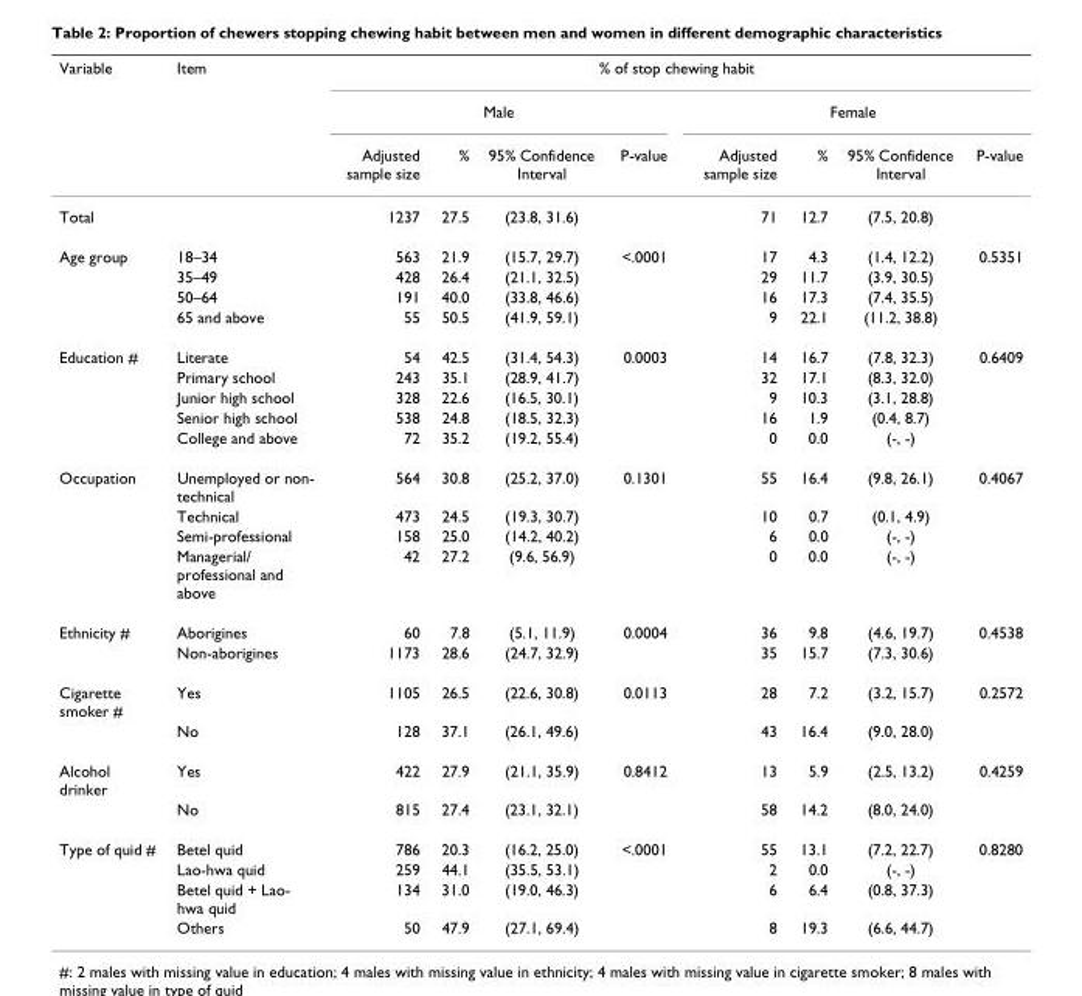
<table><thead><tr><td rowspan="3">Variable</td><td rowspan="3">Item</td><td colspan="8">% of stop chewing habit</td></tr><tr><td colspan="4">Male</td><td colspan="4">Female</td></tr><tr><td>Adjusted sample size</td><td>%</td><td>95% Confidence Interval</td><td>P-value</td><td>Adjusted sample size</td><td>%</td><td>95% Confidence Interval</td><td>P-value</td></tr></thead><tbody><tr><td>Total</td><td></td><td>1237</td><td>27.5</td><td>(23.8, 31.6)</td><td></td><td>71</td><td>12.7</td><td>(7.5, 20.8)</td><td></td></tr><tr><td rowspan="4">Age group</td><td>18–34</td><td>563</td><td>21.9</td><td>(15.7, 29.7)</td><td>&lt;.0001</td><td>17</td><td>4.3</td><td>(1.4, 12.2)</td><td>0.5351</td></tr><tr><td>35–49</td><td>428</td><td>26.4</td><td>(21.1, 32.5)</td><td></td><td>29</td><td>11.7</td><td>(3.9, 30.5)</td><td></td></tr><tr><td>50–64</td><td>191</td><td>40.0</td><td>(33.8, 46.6)</td><td></td><td>16</td><td>17.3</td><td>(7.4, 35.5)</td><td></td></tr><tr><td>65 and above</td><td>55</td><td>50.5</td><td>(41.9, 59.1)</td><td></td><td>9</td><td>22.1</td><td>(11.2, 38.8)</td><td></td></tr><tr><td rowspan="5">Education #</td><td>Literate</td><td>54</td><td>42.5</td><td>(31.4, 54.3)</td><td>0.0003</td><td>14</td><td>16.7</td><td>(7.8, 32.3)</td><td>0.6409</td></tr><tr><td>Primary school</td><td>243</td><td>35.1</td><td>(28.9, 41.7)</td><td></td><td>32</td><td>17.1</td><td>(8.3, 32.0)</td><td></td></tr><tr><td>Junior high school</td><td>328</td><td>22.6</td><td>(16.5, 30.1)</td><td></td><td>9</td><td>10.3</td><td>(3.1, 28.8)</td><td></td></tr><tr><td>Senior high school</td><td>538</td><td>24.8</td><td>(18.5, 32.3)</td><td></td><td>16</td><td>1.9</td><td>(0.4, 8.7)</td><td></td></tr><tr><td>College and above</td><td>72</td><td>35.2</td><td>(19.2, 55.4)</td><td></td><td>0</td><td>0.0</td><td>(-, -)</td><td></td></tr><tr><td rowspan="4">Occupation</td><td>Unemployed or non- technical</td><td>564</td><td>30.8</td><td>(25.2, 37.0)</td><td>0.1301</td><td>55</td><td>16.4</td><td>(9.8, 26.1)</td><td>0.4067</td></tr><tr><td>Technical</td><td>473</td><td>24.5</td><td>(19.3, 30.7)</td><td></td><td>10</td><td>0.7</td><td>(0.1, 4.9)</td><td></td></tr><tr><td>Semi-professional</td><td>158</td><td>25.0</td><td>(14.2, 40.2)</td><td></td><td>6</td><td>0.0</td><td>(-, -)</td><td></td></tr><tr><td>Managerial/ professional and above</td><td>42</td><td>27.2</td><td>(9.6, 56.9)</td><td></td><td>0</td><td>0.0</td><td>(-, -)</td><td></td></tr><tr><td rowspan="2">Ethnicity #</td><td>Aborigines</td><td>60</td><td>7.8</td><td>(5.1, 11.9)</td><td>0.0004</td><td>36</td><td>9.8</td><td>(4.6, 19.7)</td><td>0.4538</td></tr><tr><td>Non-aborigines</td><td>1173</td><td>28.6</td><td>(24.7, 32.9)</td><td></td><td>35</td><td>15.7</td><td>(7.3, 30.6)</td><td></td></tr><tr><td rowspan="2">Cigarette smoker #</td><td>Yes</td><td>1105</td><td>26.5</td><td>(22.6, 30.8)</td><td>0.0113</td><td>28</td><td>7.2</td><td>(3.2, 15.7)</td><td>0.2572</td></tr><tr><td>No</td><td>128</td><td>37.1</td><td>(26.1, 49.6)</td><td></td><td>43</td><td>16.4</td><td>(9.0, 28.0)</td><td></td></tr><tr><td rowspan="2">Alcohol drinker</td><td>Yes</td><td>422</td><td>27.9</td><td>(21.1, 35.9)</td><td>0.8412</td><td>13</td><td>5.9</td><td>(2.5, 13.2)</td><td>0.4259</td></tr><tr><td>No</td><td>815</td><td>27.4</td><td>(23.1, 32.1)</td><td></td><td>58</td><td>14.2</td><td>(8.0, 24.0)</td><td></td></tr><tr><td rowspan="4">Type of quid #</td><td>Betel quid</td><td>786</td><td>20.3</td><td>(16.2, 25.0)</td><td>&lt;.0001</td><td>55</td><td>13.1</td><td>(7.2, 22.7)</td><td>0.8280</td></tr><tr><td>Lao-hwa quid</td><td>259</td><td>44.1</td><td>(35.5, 53.1)</td><td></td><td>2</td><td>0.0</td><td>(-, -)</td><td></td></tr><tr><td>Betel quid + Lao- hwa quid</td><td>134</td><td>31.0</td><td>(19.0, 46.3)</td><td></td><td>6</td><td>6.4</td><td>(0.8, 37.3)</td><td></td></tr><tr><td>Others</td><td>50</td><td>47.9</td><td>(27.1, 69.4)</td><td></td><td>8</td><td>19.3</td><td>(6.6, 44.7)</td><td></td></tr></tbody></table>